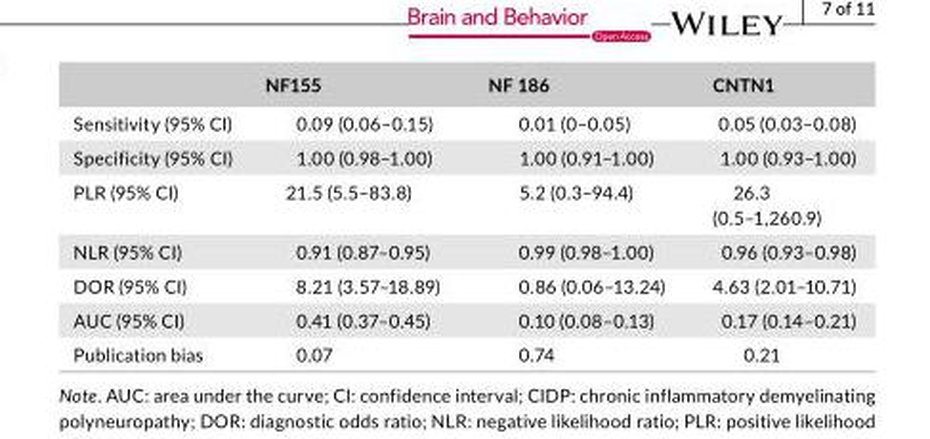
<table><thead><tr><td></td><td>NF155</td><td>NF 186</td><td>CNTN1</td></tr></thead><tbody><tr><td>Sensitivity (95% CI)</td><td>0.09 (0.06–0.15)</td><td>0.01 (0–0.05)</td><td>0.05 (0.03–0.08)</td></tr><tr><td>Specificity (95% CI)</td><td>1.00 (0.98–1.00)</td><td>1.00 (0.91–1.00)</td><td>1.00 (0.93–1.00)</td></tr><tr><td>PLR (95% CI)</td><td>21.5 (5.5–83.8)</td><td>5.2 (0.3–94.4)</td><td>26.3 (0.5–1,260.9)</td></tr><tr><td>NLR (95% CI)</td><td>0.91 (0.87–0.95)</td><td>0.99 (0.98–1.00)</td><td>0.96 (0.93–0.98)</td></tr><tr><td>DOR (95% CI)</td><td>8.21 (3.57–18.89)</td><td>0.86 (0.06–13.24)</td><td>4.63 (2.01–10.71)</td></tr><tr><td>AUC (95% CI)</td><td>0.41 (0.37–0.45)</td><td>0.10 (0.08–0.13)</td><td>0.17 (0.14–0.21)</td></tr><tr><td>Publication bias</td><td>0.07</td><td>0.74</td><td>0.21</td></tr></tbody></table>